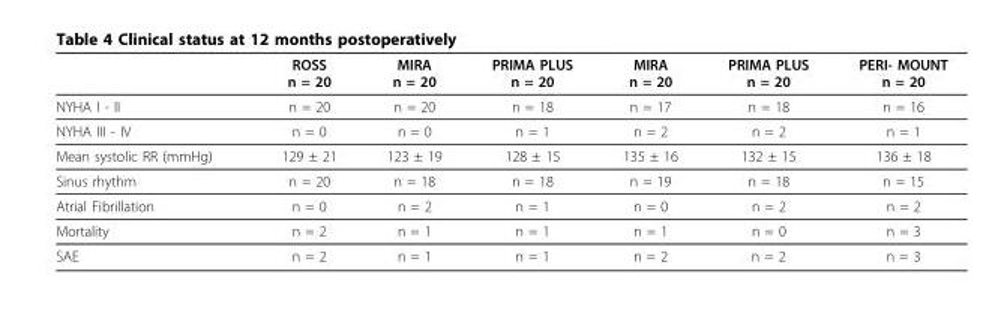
<table><thead><tr><td></td><td>ROSS n = 20</td><td>MIRA n = 20</td><td>PRIMA PLUS n = 20</td><td>MIRA n = 20</td><td>PRIMA PLUS n = 20</td><td>PERI- MOUNT n = 20</td></tr></thead><tbody><tr><td>NYHA I - II</td><td>n = 20</td><td>n = 20</td><td>n = 18</td><td>n = 17</td><td>n = 18</td><td>n = 16</td></tr><tr><td>NYHA III - IV</td><td>n = 0</td><td>n = 0</td><td>n = 1</td><td>n = 2</td><td>n = 2</td><td>n = 1</td></tr><tr><td>Mean systolic RR (mmHg)</td><td>129 ± 21</td><td>123 ± 19</td><td>128 ± 15</td><td>135 ± 16</td><td>132 ± 15</td><td>136 ± 18</td></tr><tr><td>Sinus rhythm</td><td>n = 20</td><td>n = 18</td><td>n = 18</td><td>n = 19</td><td>n = 18</td><td>n = 15</td></tr><tr><td>Atrial Fibrillation</td><td>n = 0</td><td>n = 2</td><td>n = 1</td><td>n = 0</td><td>n = 2</td><td>n = 2</td></tr><tr><td>Mortality</td><td>n = 2</td><td>n = 1</td><td>n = 1</td><td>n = 1</td><td>n = 0</td><td>n = 3</td></tr><tr><td>SAE</td><td>n = 2</td><td>n = 1</td><td>n = 1</td><td>n = 2</td><td>n = 2</td><td>n = 3</td></tr></tbody></table>